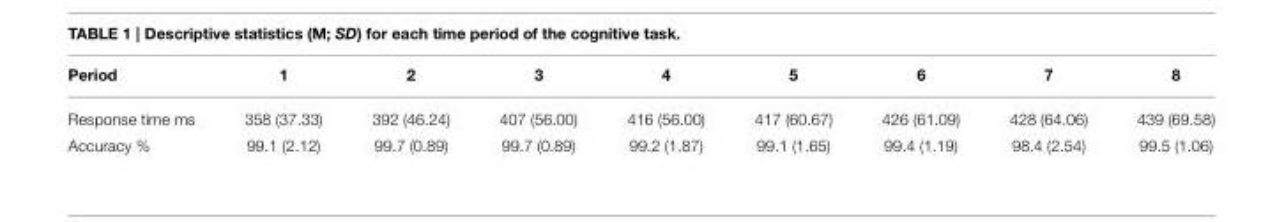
<table><thead><tr><td>Period</td><td>1</td><td>2</td><td>3</td><td>4</td><td>5</td><td>6</td><td>7</td><td>8</td></tr></thead><tbody><tr><td>Response time ms</td><td>358 (37.33)</td><td>392 (46.24)</td><td>407 (56.00)</td><td>416 (56.00)</td><td>417 (60.67)</td><td>426 (61.09)</td><td>428 (64.06)</td><td>439 (69.58)</td></tr><tr><td>Accuracy %</td><td>99.1 (2.12)</td><td>99.7 (0.89)</td><td>99.7 (0.89)</td><td>99.2 (1.87)</td><td>99.1 (1.65)</td><td>99.4 (1.19)</td><td>98.4 (2.54)</td><td>99.5 (1.06)</td></tr></tbody></table>